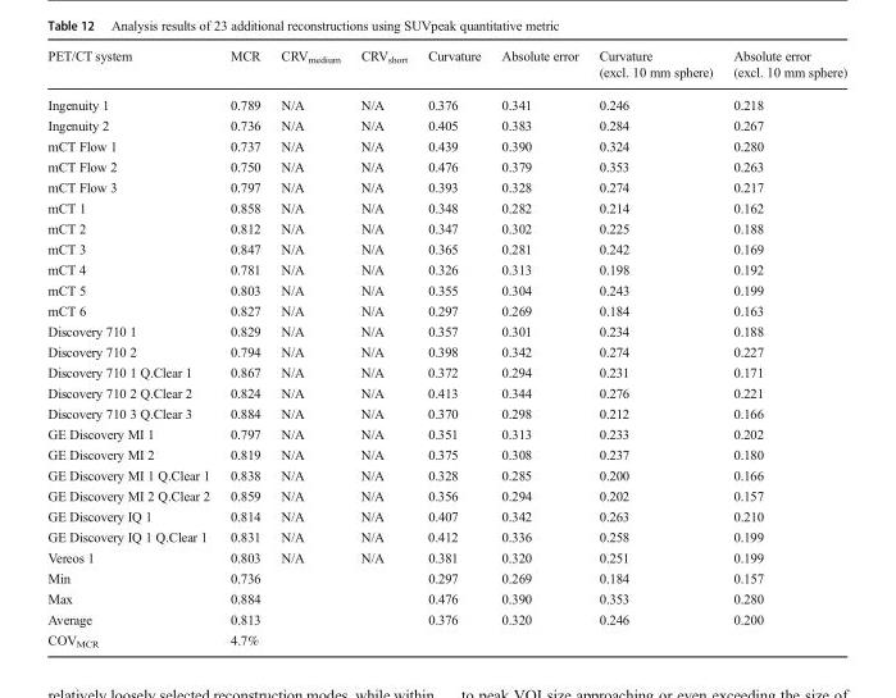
<table><thead><tr><td>PET/CT system</td><td>MCR</td><td>CRV<sub>medium</sub></td><td>CRV<sub>short</sub></td><td>Curvature</td><td>Absolute error</td><td>Curvature (excl. 10 mm sphere)</td><td>Absolute error (excl. 10 mm sphere)</td></tr></thead><tbody><tr><td>Ingenuity 1</td><td>0.789</td><td>N/A</td><td>N/A</td><td>0.376</td><td>0.341</td><td>0.246</td><td>0.218</td></tr><tr><td>Ingenuity 2</td><td>0.736</td><td>N/A</td><td>N/A</td><td>0.405</td><td>0.383</td><td>0.284</td><td>0.267</td></tr><tr><td>mCT Flow 1</td><td>0.737</td><td>N/A</td><td>N/A</td><td>0.439</td><td>0.390</td><td>0.324</td><td>0.280</td></tr><tr><td>mCT Flow 2</td><td>0.750</td><td>N/A</td><td>N/A</td><td>0.476</td><td>0.379</td><td>0.353</td><td>0.263</td></tr><tr><td>mCT Flow 3</td><td>0.797</td><td>N/A</td><td>N/A</td><td>0.393</td><td>0.328</td><td>0.274</td><td>0.217</td></tr><tr><td>mCT 1</td><td>0.858</td><td>N/A</td><td>N/A</td><td>0.348</td><td>0.282</td><td>0.214</td><td>0.162</td></tr><tr><td>mCT 2</td><td>0.812</td><td>N/A</td><td>N/A</td><td>0.347</td><td>0.302</td><td>0.225</td><td>0.188</td></tr><tr><td>mCT 3</td><td>0.847</td><td>N/A</td><td>N/A</td><td>0.365</td><td>0.281</td><td>0.242</td><td>0.169</td></tr><tr><td>mCT 4</td><td>0.781</td><td>N/A</td><td>N/A</td><td>0.326</td><td>0.313</td><td>0.198</td><td>0.192</td></tr><tr><td>mCT 5</td><td>0.803</td><td>N/A</td><td>N/A</td><td>0.355</td><td>0.304</td><td>0.243</td><td>0.199</td></tr><tr><td>mCT 6</td><td>0.827</td><td>N/A</td><td>N/A</td><td>0.297</td><td>0.269</td><td>0.184</td><td>0.163</td></tr><tr><td>Discovery 710 1</td><td>0.829</td><td>N/A</td><td>N/A</td><td>0.357</td><td>0.301</td><td>0.234</td><td>0.188</td></tr><tr><td>Discovery 710 2</td><td>0.794</td><td>N/A</td><td>N/A</td><td>0.398</td><td>0.342</td><td>0.274</td><td>0.227</td></tr><tr><td>Discovery 710 1 Q.Clear 1</td><td>0.867</td><td>N/A</td><td>N/A</td><td>0.372</td><td>0.294</td><td>0.231</td><td>0.171</td></tr><tr><td>Discovery 710 2 Q.Clear 2</td><td>0.824</td><td>N/A</td><td>N/A</td><td>0.413</td><td>0.344</td><td>0.276</td><td>0.221</td></tr><tr><td>Discovery 710 3 Q.Clear 3</td><td>0.884</td><td>N/A</td><td>N/A</td><td>0.370</td><td>0.298</td><td>0.212</td><td>0.166</td></tr><tr><td>GE Discovery MI 1</td><td>0.797</td><td>N/A</td><td>N/A</td><td>0.351</td><td>0.313</td><td>0.233</td><td>0.202</td></tr><tr><td>GE Discovery MI 2</td><td>0.819</td><td>N/A</td><td>N/A</td><td>0.375</td><td>0.308</td><td>0.237</td><td>0.180</td></tr><tr><td>GE Discovery MI 1 Q.Clear 1</td><td>0.838</td><td>N/A</td><td>N/A</td><td>0.328</td><td>0.285</td><td>0.200</td><td>0.166</td></tr><tr><td>GE Discovery MI 2 Q.Clear 2</td><td>0.859</td><td>N/A</td><td>N/A</td><td>0.356</td><td>0.294</td><td>0.202</td><td>0.157</td></tr><tr><td>GE Discovery IQ 1</td><td>0.814</td><td>N/A</td><td>N/A</td><td>0.407</td><td>0.342</td><td>0.263</td><td>0.210</td></tr><tr><td>GE Discovery IQ 1 Q.Clear 1</td><td>0.831</td><td>N/A</td><td>N/A</td><td>0.412</td><td>0.336</td><td>0.258</td><td>0.199</td></tr><tr><td>Vereos 1</td><td>0.803</td><td>N/A</td><td>N/A</td><td>0.381</td><td>0.320</td><td>0.251</td><td>0.199</td></tr><tr><td>Min</td><td>0.736</td><td></td><td></td><td>0.297</td><td>0.269</td><td>0.184</td><td>0.157</td></tr><tr><td>Max</td><td>0.884</td><td></td><td></td><td>0.476</td><td>0.390</td><td>0.353</td><td>0.280</td></tr><tr><td>Average</td><td>0.813</td><td></td><td></td><td>0.376</td><td>0.320</td><td>0.246</td><td>0.200</td></tr><tr><td>COV<sub>MCR</sub></td><td>4.7%</td><td></td><td></td><td></td><td></td><td></td><td></td></tr></tbody></table>